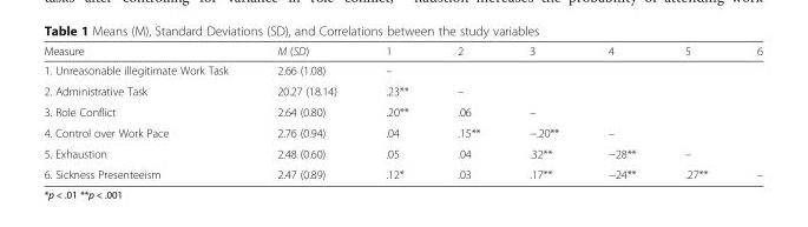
<table><thead><tr><td>Measure</td><td>M (SD)</td><td>1</td><td>2</td><td>3</td><td>4</td><td>5</td><td>6</td></tr></thead><tbody><tr><td>1. Unreasonable illegitimate Work Task</td><td>2.66 (1.08)</td><td>–</td><td></td><td></td><td></td><td></td><td></td></tr><tr><td>2. Administrative Task</td><td>20.27 (18.14)</td><td>.23**</td><td>–</td><td></td><td></td><td></td><td></td></tr><tr><td>3. Role Conflict</td><td>2.64 (0.80)</td><td>.20**</td><td>.06</td><td>–</td><td></td><td></td><td></td></tr><tr><td>4. Control over Work Pace</td><td>2.76 (0.94)</td><td>.04</td><td>.15**</td><td>−.20**</td><td>–</td><td></td><td></td></tr><tr><td>5. Exhaustion</td><td>2.48 (0.60)</td><td>.05</td><td>.04</td><td>.32**</td><td>−28**</td><td>–</td><td></td></tr><tr><td>6. Sickness Presenteeism</td><td>2.47 (0.89)</td><td>.12*</td><td>.03</td><td>.17**</td><td>−24**</td><td>.27**</td><td>–</td></tr></tbody></table>